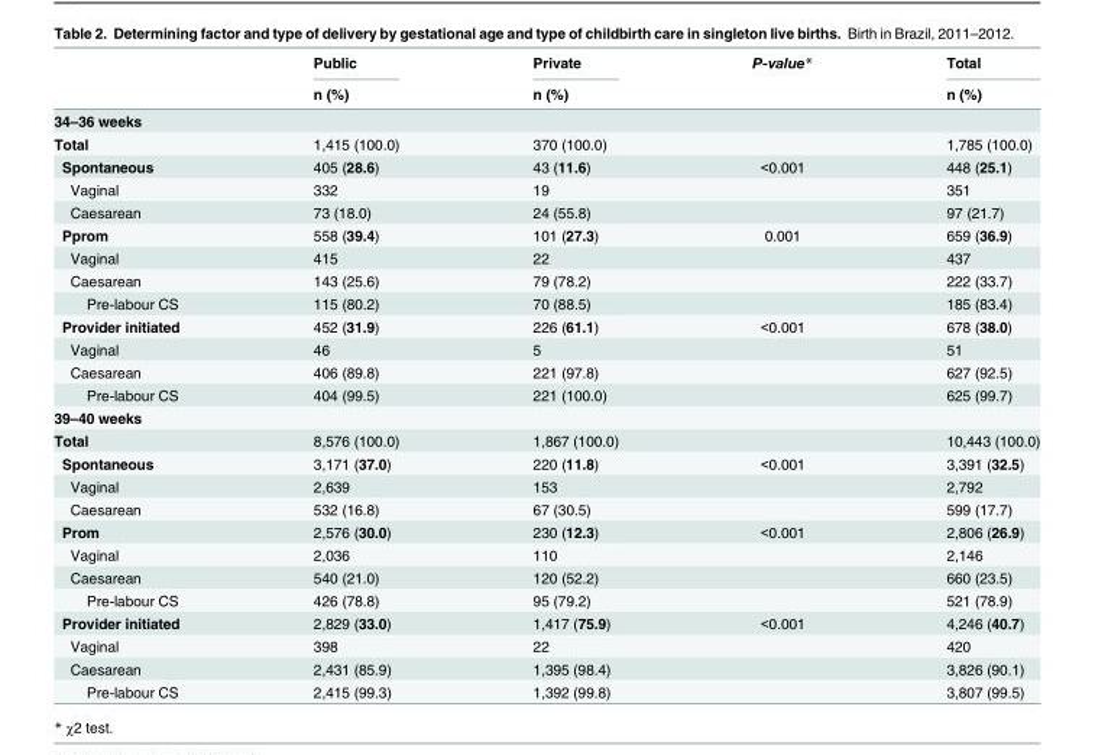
<table><thead><tr><td rowspan="2"></td><td rowspan="2">Public n (%)</td><td rowspan="2">Private n (%)</td><td rowspan="2">P-value*</td><td rowspan="2">Total n (%)</td></tr><tr></tr></thead><tbody><tr><td colspan="5">34–36 weeks</td></tr><tr><td>Total</td><td>1,415 (100.0)</td><td>370 (100.0)</td><td></td><td>1,785 (100.0)</td></tr><tr><td>Spontaneous</td><td>405 (28.6)</td><td>43 (11.6)</td><td>&lt;0.001</td><td>448 (25.1)</td></tr><tr><td>Vaginal</td><td>332</td><td>19</td><td></td><td>351</td></tr><tr><td>Caesarean</td><td>73 (18.0)</td><td>24 (55.8)</td><td></td><td>97 (21.7)</td></tr><tr><td>Pprom</td><td>558 (39.4)</td><td>101 (27.3)</td><td>0.001</td><td>659 (36.9)</td></tr><tr><td>Vaginal</td><td>415</td><td>22</td><td></td><td>437</td></tr><tr><td>Caesarean</td><td>143 (25.6)</td><td>79 (78.2)</td><td></td><td>222 (33.7)</td></tr><tr><td>Pre-labour CS</td><td>115 (80.2)</td><td>70 (88.5)</td><td></td><td>185 (83.4)</td></tr><tr><td>Provider initiated</td><td>452 (31.9)</td><td>226 (61.1)</td><td>&lt;0.001</td><td>678 (38.0)</td></tr><tr><td>Vaginal</td><td>46</td><td>5</td><td></td><td>51</td></tr><tr><td>Caesarean</td><td>406 (89.8)</td><td>221 (97.8)</td><td></td><td>627 (92.5)</td></tr><tr><td>Pre-labour CS</td><td>404 (99.5)</td><td>221 (100.0)</td><td></td><td>625 (99.7)</td></tr><tr><td colspan="5">39–40 weeks</td></tr><tr><td>Total</td><td>8,576 (100.0)</td><td>1,867 (100.0)</td><td></td><td>10,443 (100.0)</td></tr><tr><td>Spontaneous</td><td>3,171 (37.0)</td><td>220 (11.8)</td><td>&lt;0.001</td><td>3,391 (32.5)</td></tr><tr><td>Vaginal</td><td>2,639</td><td>153</td><td></td><td>2,792</td></tr><tr><td>Caesarean</td><td>532 (16.8)</td><td>67 (30.5)</td><td></td><td>599 (17.7)</td></tr><tr><td>Prom</td><td>2,576 (30.0)</td><td>230 (12.3)</td><td>&lt;0.001</td><td>2,806 (26.9)</td></tr><tr><td>Vaginal</td><td>2,036</td><td>110</td><td></td><td>2,146</td></tr><tr><td>Caesarean</td><td>540 (21.0)</td><td>120 (52.2)</td><td></td><td>660 (23.5)</td></tr><tr><td>Pre-labour CS</td><td>426 (78.8)</td><td>95 (79.2)</td><td></td><td>521 (78.9)</td></tr><tr><td>Provider initiated</td><td>2,829 (33.0)</td><td>1,417 (75.9)</td><td>&lt;0.001</td><td>4,246 (40.7)</td></tr><tr><td>Vaginal</td><td>398</td><td>22</td><td></td><td>420</td></tr><tr><td>Caesarean</td><td>2,431 (85.9)</td><td>1,395 (98.4)</td><td></td><td>3,826 (90.1)</td></tr><tr><td>Pre-labour CS</td><td>2,415 (99.3)</td><td>1,392 (99.8)</td><td></td><td>3,807 (99.5)</td></tr></tbody></table>